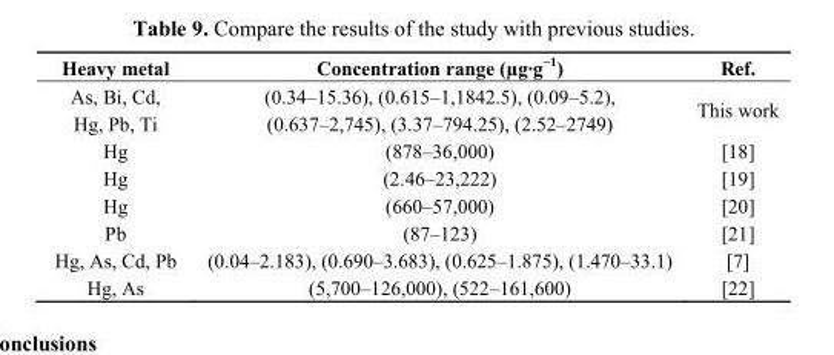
<table><thead><tr><td>Heavy metal</td><td>Concentration range (µg·g<sup>−1</sup>)</td><td>Ref.</td></tr></thead><tbody><tr><td>As, Bi, Cd,</td><td>(0.34–15.36), (0.615–1,1842.5), (0.09–5.2),</td><td rowspan="2">This work</td></tr><tr><td>Hg, Pb, Ti</td><td>(0.637–2,745), (3.37–794.25), (2.52–2749)</td></tr><tr><td>Hg</td><td>(878–36,000)</td><td>[18]</td></tr><tr><td>Hg</td><td>(2.46–23,222)</td><td>[19]</td></tr><tr><td>Hg</td><td>(660–57,000)</td><td>[20]</td></tr><tr><td>Pb</td><td>(87–123)</td><td>[21]</td></tr><tr><td>Hg, As, Cd, Pb</td><td>(0.04–2.183), (0.690–3.683), (0.625–1.875), (1.470–33.1)</td><td>[7]</td></tr><tr><td>Hg, As</td><td>(5,700–126,000), (522–161,600)</td><td>[22]</td></tr></tbody></table>